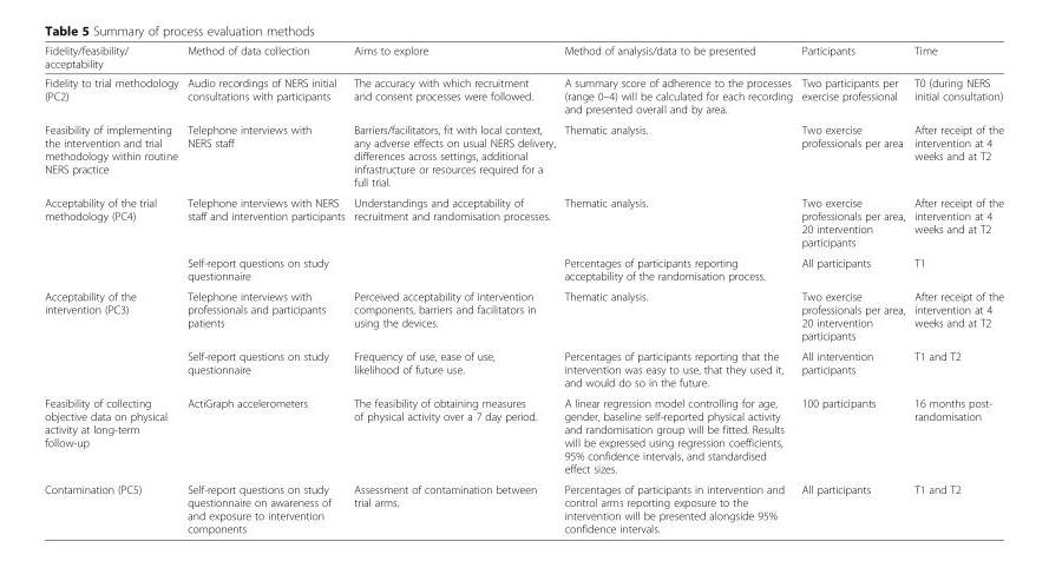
<table><thead><tr><td>Fidelity/feasibility/ acceptability</td><td>Method of data collection</td><td>Aims to explore</td><td>Method of analysis/data to be presented</td><td>Participants</td><td>Time</td></tr></thead><tbody><tr><td>Fidelity to trial methodology (PC2)</td><td>Audio recordings of NERS initial consultations with participants</td><td>The accuracy with which recruitment and consent processes were followed.</td><td>A summary score of adherence to the processes (range 0–4) will be calculated for each recording and presented overall and by area.</td><td>Two participants per exercise professional</td><td>T0 (during NERS initial consultation)</td></tr><tr><td>Feasibility of implementing the intervention and trial methodology within routine NERS practice</td><td>Telephone interviews with NERS staff</td><td>Barriers/facilitators, fit with local context, any adverse effects on usual NERS delivery, differences across settings, additional infrastructure or resources required for a full trial.</td><td>Thematic analysis.</td><td>Two exercise professionals per area</td><td>After receipt of the intervention at 4 weeks and at T2</td></tr><tr><td rowspan="2">Acceptability of the trial methodology (PC4)</td><td>Telephone interviews with NERS staff and intervention participants</td><td rowspan="2">Understandings and acceptability of recruitment and randomisation processes.</td><td>Thematic analysis.</td><td>Two exercise professionals per area, 20 intervention participants</td><td>After receipt of the intervention at 4 weeks and at T2</td></tr><tr><td>Self-report questions on study questionnaire</td><td>Percentages of participants reporting acceptability of the randomisation process.</td><td>All participants</td><td>T1</td></tr><tr><td rowspan="2">Acceptability of the intervention (PC3)</td><td>Telephone interviews with professionals and participants patients</td><td>Perceived acceptability of intervention components, barriers and facilitators in using the devices.</td><td>Thematic analysis.</td><td>Two exercise professionals per area, 20 intervention participants</td><td>After receipt of the intervention at 4 weeks and at T2</td></tr><tr><td>Self-report questions on study questionnaire</td><td>Frequency of use, ease of use, likelihood of future use.</td><td>Percentages of participants reporting that the intervention was easy to use, that they used it, and would do so in the future.</td><td>All intervention participants</td><td>T1 and T2</td></tr><tr><td>Feasibility of collecting objective data on physical activity at long-term follow-up</td><td>ActiGraph accelerometers</td><td>The feasibility of obtaining measures of physical activity over a 7 day period.</td><td>A linear regression model controlling for age, gender, baseline self-reported physical activity and randomisation group will be fitted. Results will be expressed using regression coefficients, 95% confidence intervals, and standardised effect sizes.</td><td>100 participants</td><td>16 months post- randomisation</td></tr><tr><td>Contamination (PC5)</td><td>Self-report questions on study questionnaire on awareness of and exposure to intervention components</td><td>Assessment of contamination between trial arms.</td><td>Percentages of participants in intervention and control arms reporting exposure to the intervention will be presented alongside 95% confidence intervals.</td><td>All participants</td><td>T1 and T2</td></tr></tbody></table>